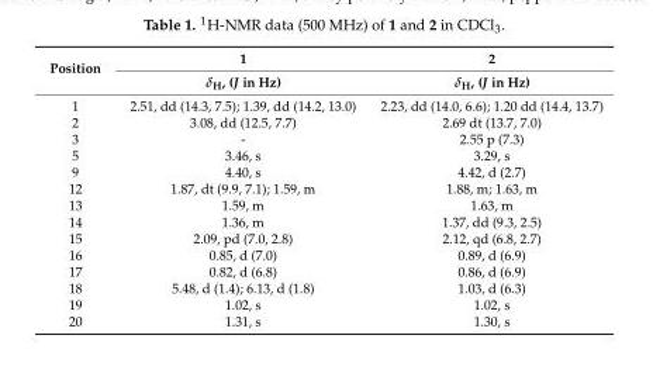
<table><thead><tr><td rowspan="2">Position</td><td rowspan="2">1 δH, (J in Hz)</td><td rowspan="2">2 δH, (J in Hz)</td></tr><tr></tr></thead><tbody><tr><td>1</td><td>2.51, dd (14.3, 7.5); 1.39, dd (14.2, 13.0)</td><td>2.23, dd (14.0, 6.6); 1.20 dd (14.4, 13.7)</td></tr><tr><td>2</td><td>3.08, dd (12.5, 7.7)</td><td>2.69 dt (13.7, 7.0)</td></tr><tr><td>3</td><td>-</td><td>2.55 p (7.3)</td></tr><tr><td>5</td><td>3.46, s</td><td>3.29, s</td></tr><tr><td>9</td><td>4.40, s</td><td>4.42, d (2.7)</td></tr><tr><td>12</td><td>1.87, dt (9.9, 7.1); 1.59, m</td><td>1.88, m; 1.63, m</td></tr><tr><td>13</td><td>1.59, m</td><td>1.63, m</td></tr><tr><td>14</td><td>1.36, m</td><td>1.37, dd (9.3, 2.5)</td></tr><tr><td>15</td><td>2.09, pd (7.0, 2.8)</td><td>2.12, qd (6.8, 2.7)</td></tr><tr><td>16</td><td>0.85, d (7.0)</td><td>0.89, d (6.9)</td></tr><tr><td>17</td><td>0.82, d (6.8)</td><td>0.86, d (6.9)</td></tr><tr><td>18</td><td>5.48, d (1.4); 6.13, d (1.8)</td><td>1.03, d (6.3)</td></tr><tr><td>19</td><td>1.02, s</td><td>1.02, s</td></tr><tr><td>20</td><td>1.31, s</td><td>1.30, s</td></tr></tbody></table>